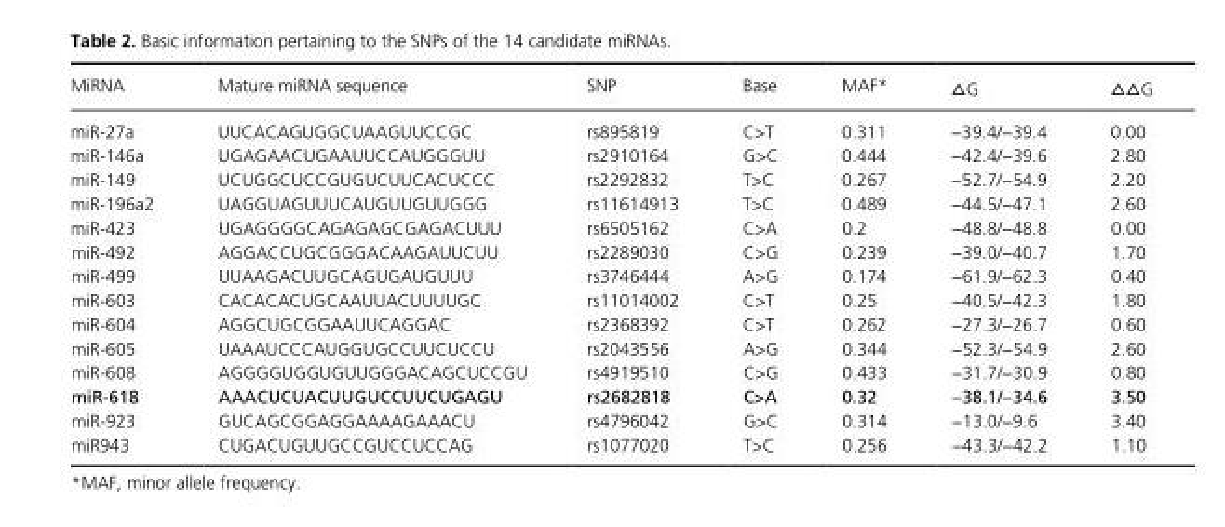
<table><thead><tr><td>MiRNA</td><td>Mature miRNA sequence</td><td>SNP</td><td>Base</td><td>MAF*</td><td>▵G</td><td>▵▵G</td></tr></thead><tbody><tr><td>miR- 27a</td><td>UUCACAGUGGCUAAGUUCCGC</td><td>rs895819</td><td>C&gt;T</td><td>0.311</td><td>−39.4/−39.4</td><td>0.00</td></tr><tr><td>miR- 146a</td><td>UGAGAACUGAAUUCCAUGGGUU</td><td>rs2910164</td><td>G&gt;C</td><td>0.444</td><td>−42.4/−39.6</td><td>2.80</td></tr><tr><td>miR- 149</td><td>UCUGGCUCCGUGUCUUCACUCCC</td><td>rs2292832</td><td>T&gt;C</td><td>0.267</td><td>−52.7/−54.9</td><td>2.20</td></tr><tr><td>miR- 196a2</td><td>UAGGUAGUUUCAUGUUGUUGGG</td><td>rs11614913</td><td>T&gt;C</td><td>0.489</td><td>−44.5/−47.1</td><td>2.60</td></tr><tr><td>miR- 423</td><td>UGAGGGGCAGAGAGCGAGACUUU</td><td>rs6505162</td><td>C&gt;A</td><td>0.2</td><td>−48.8/−48.8</td><td>0.00</td></tr><tr><td>miR- 492</td><td>AGGACCUGCGGGACAAGAUUCUU</td><td>rs2289030</td><td>C&gt;G</td><td>0.239</td><td>−39.0/−40.7</td><td>1.70</td></tr><tr><td>miR- 499</td><td>UUAAGACUUGCAGUGAUGUUU</td><td>rs3746444</td><td>A&gt;G</td><td>0.174</td><td>−61.9/−62.3</td><td>0.40</td></tr><tr><td>miR- 603</td><td>CACACACUGCAAUUACUUUUGC</td><td>rs11014002</td><td>C&gt;T</td><td>0.25</td><td>−40.5/−42.3</td><td>1.80</td></tr><tr><td>miR- 604</td><td>AGGCUGCGGAAUUCAGGAC</td><td>rs2368392</td><td>C&gt;T</td><td>0.262</td><td>−27.3/−26.7</td><td>0.60</td></tr><tr><td>miR- 605</td><td>UAAAUCCCAUGGUGCCUUCUCCU</td><td>rs2043556</td><td>A&gt;G</td><td>0.344</td><td>−52.3/−54.9</td><td>2.60</td></tr><tr><td>miR- 608</td><td>AGGGGUGGUGUUGGGACAGCUCCGU</td><td>rs4919510</td><td>C&gt;G</td><td>0.433</td><td>−31.7/−30.9</td><td>0.80</td></tr><tr><td>miR-618</td><td>AAACUCUACUUGUCCUUCUGAGU</td><td>rs2682818</td><td>C&gt;A</td><td>0.32</td><td>−38.1/−34.6</td><td>3.50</td></tr><tr><td>miR- 923</td><td>GUCAGCGGAGGAAAAGAAACU</td><td>rs4796042</td><td>G&gt;C</td><td>0.314</td><td>−13.0/−9.6</td><td>3.40</td></tr><tr><td>miR943</td><td>CUGACUGUUGCCGUCCUCCAG</td><td>rs1077020</td><td>T&gt;C</td><td>0.256</td><td>−43.3/−42.2</td><td>1.10</td></tr></tbody></table>